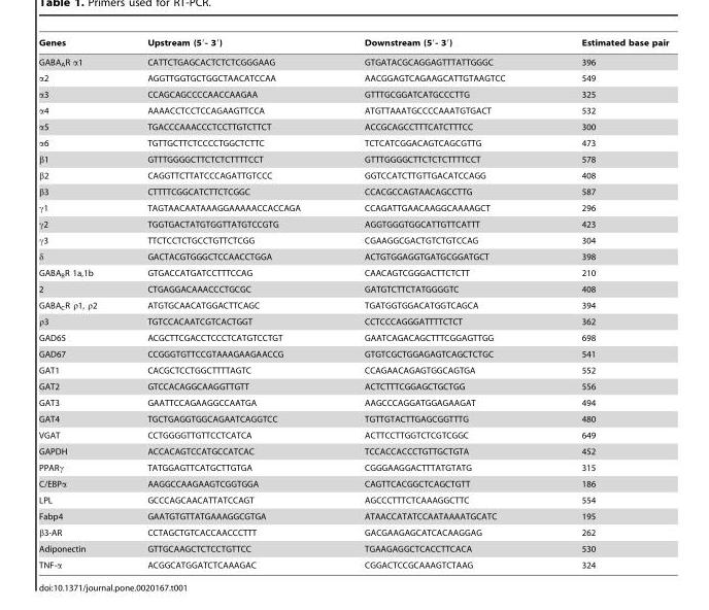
<table><thead><tr><td>Genes</td><td>Upstream (5′- 3′)</td><td>Downstream (5′- 3′)</td><td>Estimated base pair</td></tr></thead><tbody><tr><td>GABA<sub>A</sub>R α1</td><td>CATTCTGAGCACTCTCTCGGGAAG</td><td>GTGATACGCAGGAGTTTATTGGGC</td><td>396</td></tr><tr><td>α2</td><td>AGGTTGGTGCTGGCTAACATCCAA</td><td>AACGGAGTCAGAAGCATTGTAAGTCC</td><td>549</td></tr><tr><td>α3</td><td>CCAGCAGCCCCAACCAAGAA</td><td>GTTTGCGGATCATGCCCTTG</td><td>325</td></tr><tr><td>α4</td><td>AAAACCTCCTCCAGAAGTTCCA</td><td>ATGTTAAATGCCCCAAATGTGACT</td><td>532</td></tr><tr><td>α5</td><td>TGACCCAAACCCTCCTTGTCTTCT</td><td>ACCGCAGCCTTTCATCTTTCC</td><td>300</td></tr><tr><td>α6</td><td>TGTTGCTTCTCCCCTGGCTCTTC</td><td>TCTCATCGGACAGTCAGCGTTG</td><td>473</td></tr><tr><td>β1</td><td>GTTTGGGGCTTCTCTCTTTTCCT</td><td>GTTTGGGGCTTCTCTCTTTTCCT</td><td>578</td></tr><tr><td>β2</td><td>CAGGTTCTTATCCCAGATTGTCCC</td><td>GGTCCATCTTGTTGACATCCAGG</td><td>408</td></tr><tr><td>β3</td><td>CTTTTCGGCATCTTCTCGGC</td><td>CCACGCCAGTAACAGCCTTG</td><td>587</td></tr><tr><td>γ1</td><td>TAGTAACAATAAAGGAAAAACCACCAGA</td><td>CCAGATTGAACAAGGCAAAAGCT</td><td>296</td></tr><tr><td>γ2</td><td>TGGTGACTATGTGGTTATGTCCGTG</td><td>AGGTGGGTGGCATTGTTCATTT</td><td>423</td></tr><tr><td>γ3</td><td>TTCTCCTCTGCCTGTTCTCGG</td><td>CGAAGGCGACTGTCTGTCCAG</td><td>304</td></tr><tr><td>δ</td><td>GACTACGTGGGCTCCAACCTGGA</td><td>ACTGTGGAGGTGATGCGGATGCT</td><td>398</td></tr><tr><td>GABA<sub>B</sub>R 1a,1b</td><td>GTGACCATGATCCTTTCCAG</td><td>CAACAGTCGGGACTTCTCTT</td><td>210</td></tr><tr><td>2</td><td>CTGAGGACAAACCCTGCGC</td><td>GATGTCTTCTATGGGGTC</td><td>408</td></tr><tr><td>GABA<sub>C</sub>R ρ1, ρ2</td><td>ATGTGCAACATGGACTTCAGC</td><td>TGATGGTGGACATGGTCAGCA</td><td>394</td></tr><tr><td>ρ3</td><td>TGTCCACAATCGTCACTGGT</td><td>CCTCCCAGGGATTTTCTCT</td><td>362</td></tr><tr><td>GAD65</td><td>ACGCTTCGACCTCCCTCATGTCCTGT</td><td>GAATCAGACAGCTTTCGGAGTTGG</td><td>698</td></tr><tr><td>GAD67</td><td>CCGGGTGTTCCGTAAAGAAGAACCG</td><td>GTGTCGCTGGAGAGTCAGCTCTGC</td><td>541</td></tr><tr><td>GAT1</td><td>CACGCTCCTGGCTTTTAGTC</td><td>CCAGAACAGAGTGGCAGTGA</td><td>552</td></tr><tr><td>GAT2</td><td>GTCCACAGGCAAGGTTGTT</td><td>ACTCTTTCGGAGCTGCTGG</td><td>556</td></tr><tr><td>GAT3</td><td>GAATTCCAGAAGGCCAATGA</td><td>AAGCCCAGGATGGAGAAGAT</td><td>494</td></tr><tr><td>GAT4</td><td>TGCTGAGGTGGCAGAATCAGGTCC</td><td>TGTTGTACTTGAGCGGTTTG</td><td>480</td></tr><tr><td>VGAT</td><td>CCTGGGGTTGTTCCTCATCA</td><td>ACTTCCTTGGTCTCGTCGGC</td><td>649</td></tr><tr><td>GAPDH</td><td>ACCACAGTCCATGCCATCAC</td><td>TCCACCACCCTGTTGCTGTA</td><td>452</td></tr><tr><td>PPARγ</td><td>TATGGAGTTCATGCTTGTGA</td><td>CGGGAAGGACTTTATGTATG</td><td>315</td></tr><tr><td>C/EBPα</td><td>AAGGCCAAGAAGTCGGTGGA</td><td>CAGTTCACGGCTCAGCTGTT</td><td>186</td></tr><tr><td>LPL</td><td>GCCCAGCAACATTATCCAGT</td><td>AGCCCTTTCTCAAAGGCTTC</td><td>554</td></tr><tr><td>Fabp4</td><td>GAATGTGTTATGAAAGGCGTGA</td><td>ATAACCATATCCAATAAAATGCATC</td><td>195</td></tr><tr><td>β3-AR</td><td>CCTAGCTGTCACCAACCCTTT</td><td>GACGAAGAGCATCACAAGGAG</td><td>262</td></tr><tr><td>Adiponectin</td><td>GTTGCAAGCTCTCCTGTTCC</td><td>TGAAGAGGCTCACCTTCACA</td><td>530</td></tr><tr><td>TNF-α</td><td>ACGGCATGGATCTCAAAGAC</td><td>CGGACTCCGCAAAGTCTAAG</td><td>324</td></tr></tbody></table>